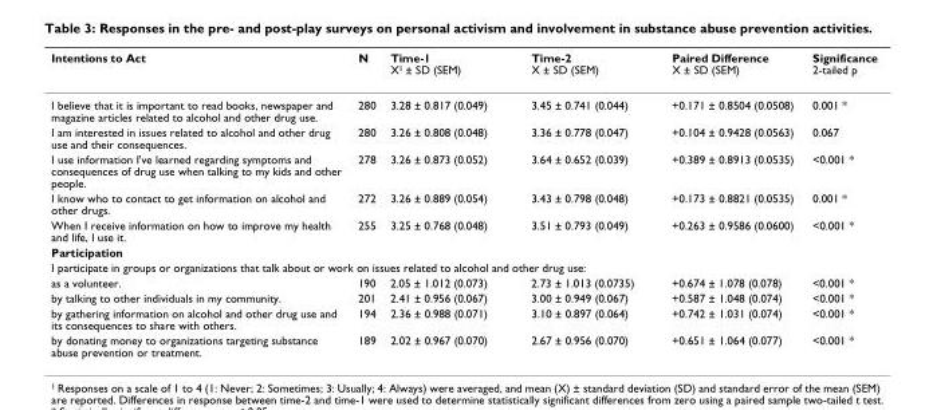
<table><thead><tr><td>Intentions to Act</td><td>N</td><td>Time-1 X<sup>1</sup> ± SD (SEM)</td><td>Time-2 X ± SD (SEM)</td><td>Paired Difference X ± SD (SEM)</td><td>Significance 2-tailed p</td></tr></thead><tbody><tr><td>I believe that it is important to read books, newspaper and magazine articles related to alcohol and other drug use.</td><td>280</td><td>3.28 ± 0.817 (0.049)</td><td>3.45 ± 0.741 (0.044)</td><td>+0.171 ± 0.8504 (0.0508)</td><td>0.001 *</td></tr><tr><td>I am interested in issues related to alcohol and other drug use and their consequences.</td><td>280</td><td>3.26 ± 0.808 (0.048)</td><td>3.36 ± 0.778 (0.047)</td><td>+0.104 ± 0.9428 (0.0563)</td><td>0.067</td></tr><tr><td>I use information I&#x27;ve learned regarding symptoms and consequences of drug use when talking to my kids and other people.</td><td>278</td><td>3.26 ± 0.873 (0.052)</td><td>3.64 ± 0.652 (0.039)</td><td>+0.389 ± 0.8913 (0.0535)</td><td>&lt;0.001 *</td></tr><tr><td>I know who to contact to get information on alcohol and other drugs.</td><td>272</td><td>3.26 ± 0.889 (0.054)</td><td>3.43 ± 0.798 (0.048)</td><td>+0.173 ± 0.8821 (0.0535)</td><td>0.001 *</td></tr><tr><td>When I receive information on how to improve my health and life, I use it.</td><td>255</td><td>3.25 ± 0.768 (0.048)</td><td>3.51 ± 0.793 (0.049)</td><td>+0.263 ± 0.9586 (0.0600)</td><td>&lt;0.001 *</td></tr><tr><td colspan="6">Participation</td></tr><tr><td colspan="6">I participate in groups or organizations that talk about or work on issues related to alcohol and other drug use:</td></tr><tr><td>as a volunteer.</td><td>190</td><td>2.05 ± 1.012 (0.073)</td><td>2.73 ± 1.013 (0.0735)</td><td>+0.674 ± 1.078 (0.078)</td><td>&lt;0.001 *</td></tr><tr><td>by talking to other individuals in my community.</td><td>201</td><td>2.41 ± 0.956 (0.067)</td><td>3.00 ± 0.949 (0.067)</td><td>+0.587 ± 1.048 (0.074)</td><td>&lt;0.001 *</td></tr><tr><td>by gathering information on alcohol and other drug use and its consequences to share with others.</td><td>194</td><td>2.36 ± 0.988 (0.071)</td><td>3.10 ± 0.897 (0.064)</td><td>+0.742 ± 1.031 (0.074)</td><td>&lt;0.001 *</td></tr><tr><td>by donating money to organizations targeting substance abuse prevention or treatment.</td><td>189</td><td>2.02 ± 0.967 (0.070)</td><td>2.67 ± 0.956 (0.070)</td><td>+0.651 ± 1.064 (0.077)</td><td>&lt;0.001 *</td></tr></tbody></table>